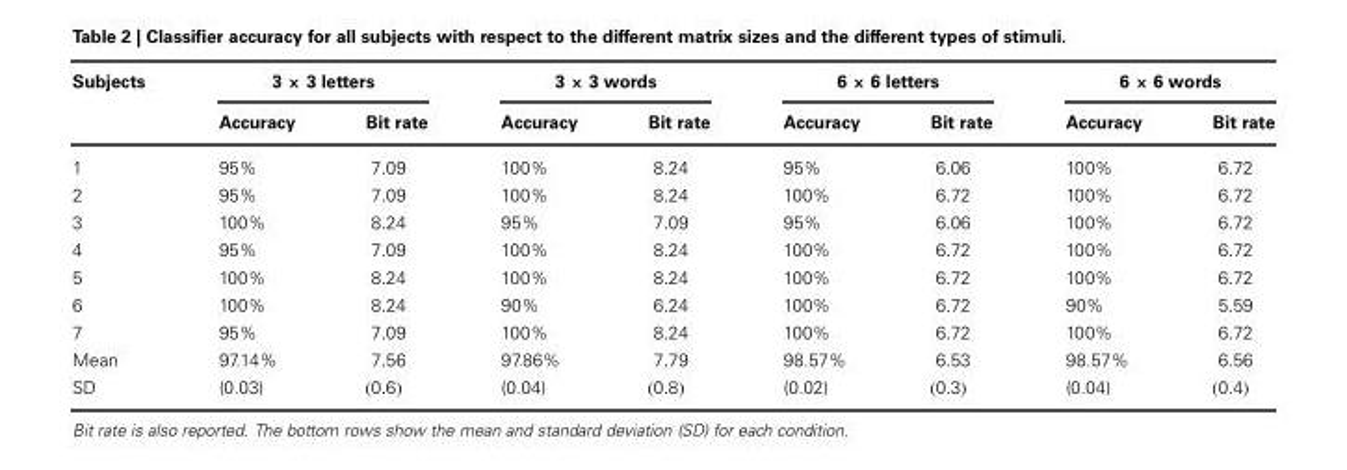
<table><thead><tr><td rowspan="2">Subjects</td><td colspan="2">3 × 3 letters</td><td colspan="2">3 × 3 words</td><td colspan="2">6 × 6 letters</td><td colspan="2">6 × 6 words</td></tr><tr><td>Accuracy</td><td>Bit rate</td><td>Accuracy</td><td>Bit rate</td><td>Accuracy</td><td>Bit rate</td><td>Accuracy</td><td>Bit rate</td></tr></thead><tbody><tr><td>1</td><td>95%</td><td>7.09</td><td>100%</td><td>8.24</td><td>95%</td><td>6.06</td><td>100%</td><td>6.72</td></tr><tr><td>2</td><td>95%</td><td>7.09</td><td>100%</td><td>8.24</td><td>100%</td><td>6.72</td><td>100%</td><td>6.72</td></tr><tr><td>3</td><td>100%</td><td>8.24</td><td>95%</td><td>7.09</td><td>95%</td><td>6.06</td><td>100%</td><td>6.72</td></tr><tr><td>4</td><td>95%</td><td>7.09</td><td>100%</td><td>8.24</td><td>100%</td><td>6.72</td><td>100%</td><td>6.72</td></tr><tr><td>5</td><td>100%</td><td>8.24</td><td>100%</td><td>8.24</td><td>100%</td><td>6.72</td><td>100%</td><td>6.72</td></tr><tr><td>6</td><td>100%</td><td>8.24</td><td>90%</td><td>6.24</td><td>100%</td><td>6.72</td><td>90%</td><td>5.59</td></tr><tr><td>7</td><td>95%</td><td>7.09</td><td>100%</td><td>8.24</td><td>100%</td><td>6.72</td><td>100%</td><td>6.72</td></tr><tr><td>Mean</td><td>97.14%</td><td>7.56</td><td>97.86%</td><td>7.79</td><td>98.57%</td><td>6.53</td><td>98.57%</td><td>6.56</td></tr><tr><td>SD</td><td>(0.03)</td><td>(0.6)</td><td>(0.04)</td><td>(0.8)</td><td>(0.02)</td><td>(0.3)</td><td>(0.04)</td><td>(0.4)</td></tr></tbody></table>